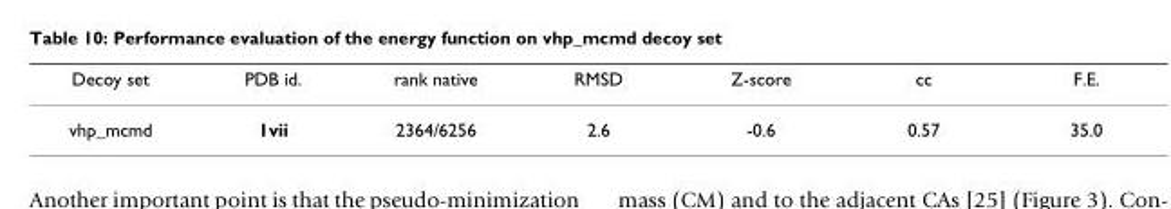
<table><thead><tr><td>Decoy set</td><td>PDB id.</td><td>rank native</td><td>RMSD</td><td>Z-score</td><td>cc</td><td>F.E.</td></tr></thead><tbody><tr><td>vhp_mcmd</td><td>1vii</td><td>2364/6256</td><td>2.6</td><td>-0.6</td><td>0.57</td><td>35.0</td></tr></tbody></table>